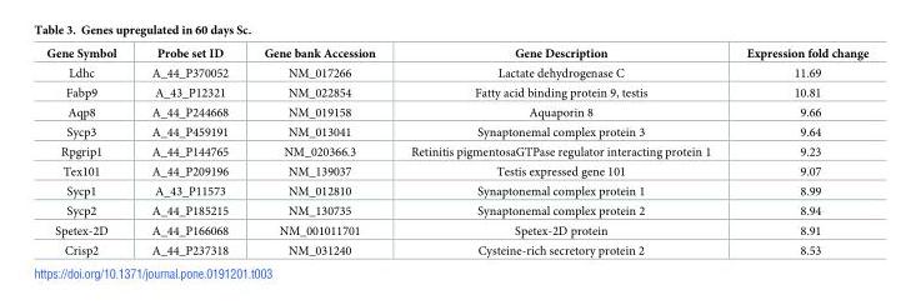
<table><thead><tr><td>Gene Symbol</td><td>Probe set ID</td><td>Gene bank Accession</td><td>Gene Description</td><td>Expression fold change</td></tr></thead><tbody><tr><td>Ldhc</td><td>A_44_P370052</td><td>NM_017266</td><td>Lactate dehydrogenase C</td><td>11.69</td></tr><tr><td>Fabp9</td><td>A_43_P12321</td><td>NM_022854</td><td>Fatty acid binding protein 9, testis</td><td>10.81</td></tr><tr><td>Aqp8</td><td>A_44_P244668</td><td>NM_019158</td><td>Aquaporin 8</td><td>9.66</td></tr><tr><td>Sycp3</td><td>A_44_P459191</td><td>NM_013041</td><td>Synaptonemal complex protein 3</td><td>9.64</td></tr><tr><td>Rpgrip1</td><td>A_44_P144765</td><td>NM_020366.3</td><td>Retinitis pigmentosaGTPase regulator interacting protein 1</td><td>9.23</td></tr><tr><td>Tex101</td><td>A_44_P209196</td><td>NM_139037</td><td>Testis expressed gene 101</td><td>9.07</td></tr><tr><td>Sycp1</td><td>A_43_P11573</td><td>NM_012810</td><td>Synaptonemal complex protein 1</td><td>8.99</td></tr><tr><td>Sycp2</td><td>A_44_P185215</td><td>NM_130735</td><td>Synaptonemal complex protein 2</td><td>8.94</td></tr><tr><td>Spetex-2D</td><td>A_44_P166068</td><td>NM_001011701</td><td>Spetex-2D protein</td><td>8.91</td></tr><tr><td>Crisp2</td><td>A_44_P237318</td><td>NM_031240</td><td>Cysteine-rich secretory protein 2</td><td>8.53</td></tr></tbody></table>